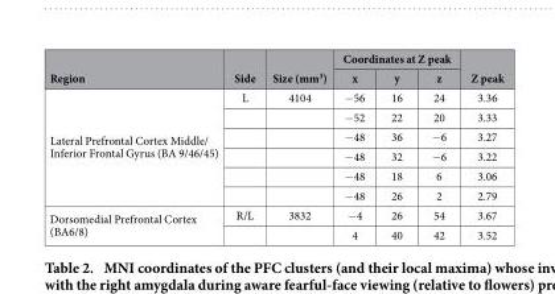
<table><thead><tr><td rowspan="2">Region</td><td rowspan="2">Side</td><td rowspan="2">Size (mm<sup>3</sup>)</td><td colspan="3">Coordinates at Z peak</td><td rowspan="2">Z peak</td></tr><tr><td>x</td><td>y</td><td>z</td></tr></thead><tbody><tr><td rowspan="6">Lateral Prefrontal Cortex Middle/ Inferior Frontal Gyrus (BA 9/46/45)</td><td>L</td><td>4104</td><td>− 56</td><td>16</td><td>24</td><td>3.36</td></tr><tr><td></td><td></td><td>− 52</td><td>22</td><td>20</td><td>3.33</td></tr><tr><td></td><td></td><td>− 48</td><td>36</td><td>− 6</td><td>3.27</td></tr><tr><td></td><td></td><td>− 48</td><td>32</td><td>− 6</td><td>3.22</td></tr><tr><td></td><td></td><td>− 48</td><td>18</td><td>6</td><td>3.06</td></tr><tr><td></td><td></td><td>− 48</td><td>26</td><td>2</td><td>2.79</td></tr><tr><td rowspan="2">Dorsomedial Prefrontal Cortex (BA6/8)</td><td>R/L</td><td>3832</td><td>− 4</td><td>26</td><td>54</td><td>3.67</td></tr><tr><td></td><td></td><td>4</td><td>40</td><td>42</td><td>3.52</td></tr></tbody></table>